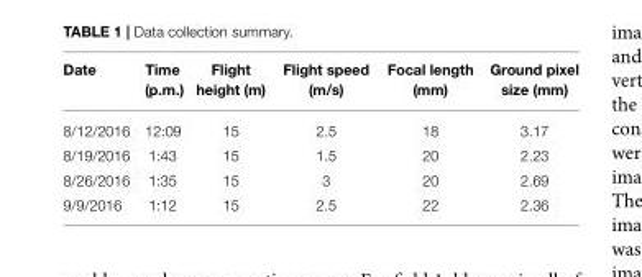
<table><thead><tr><td>Date</td><td>Time (p.m.)</td><td>Flight height (m)</td><td>Flight speed (m/s)</td><td>Focal length (mm)</td><td>Ground pixel size (mm)</td></tr></thead><tbody><tr><td>8/12/2016</td><td>12:09</td><td>15</td><td>2.5</td><td>18</td><td>3.17</td></tr><tr><td>8/19/2016</td><td>1:43</td><td>15</td><td>1.5</td><td>20</td><td>2.23</td></tr><tr><td>8/26/2016</td><td>1:35</td><td>15</td><td>3</td><td>20</td><td>2.69</td></tr><tr><td>9/9/2016</td><td>1:12</td><td>15</td><td>2.5</td><td>22</td><td>2.36</td></tr></tbody></table>